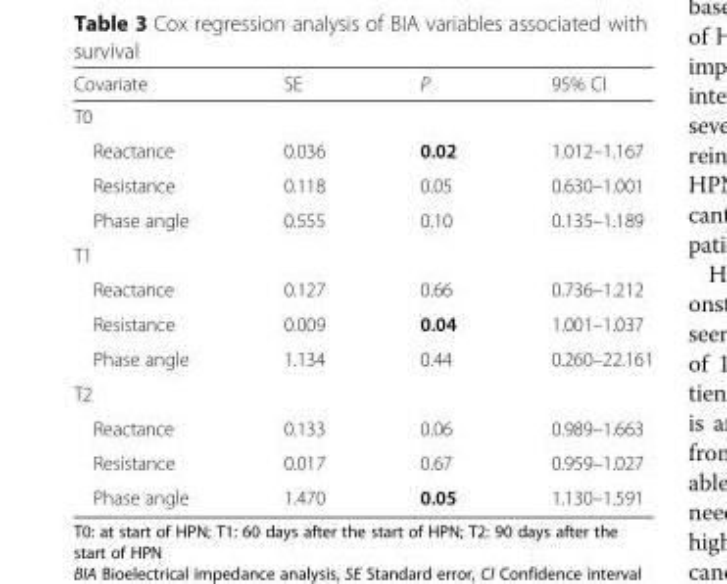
<table><thead><tr><td>Covariate</td><td>SE</td><td>P</td><td>95% CI</td></tr></thead><tbody><tr><td colspan="4">T0</td></tr><tr><td>Reactance</td><td>0.036</td><td>0.02</td><td>1.012–1.167</td></tr><tr><td>Resistance</td><td>0.118</td><td>0.05</td><td>0.630–1.001</td></tr><tr><td>Phase angle</td><td>0.555</td><td>0.10</td><td>0.135–1.189</td></tr><tr><td colspan="4">T1</td></tr><tr><td>Reactance</td><td>0.127</td><td>0.66</td><td>0.736–1.212</td></tr><tr><td>Resistance</td><td>0.009</td><td>0.04</td><td>1.001–1.037</td></tr><tr><td>Phase angle</td><td>1.134</td><td>0.44</td><td>0.260–22.161</td></tr><tr><td colspan="4">T2</td></tr><tr><td>Reactance</td><td>0.133</td><td>0.06</td><td>0.989–1.663</td></tr><tr><td>Resistance</td><td>0.017</td><td>0.67</td><td>0.959–1.027</td></tr><tr><td>Phase angle</td><td>1.470</td><td>0.05</td><td>1.130–1.591</td></tr></tbody></table>